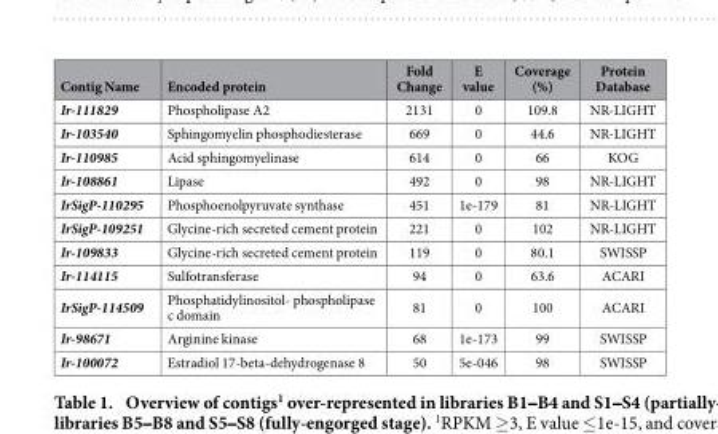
<table><thead><tr><td>Contig Name</td><td>Encoded protein</td><td>Fold Change</td><td>E value</td><td>Coverage (%)</td><td>Protein Database</td></tr></thead><tbody><tr><td>Ir-111829</td><td>Phospholipase A2</td><td>2131</td><td>0</td><td>109.8</td><td>NR-LIGHT</td></tr><tr><td>Ir-103540</td><td>Sphingomyelin phosphodiesterase</td><td>669</td><td>0</td><td>44.6</td><td>NR-LIGHT</td></tr><tr><td>Ir-110985</td><td>Acid sphingomyelinase</td><td>614</td><td>0</td><td>66</td><td>KOG</td></tr><tr><td>Ir-108861</td><td>Lipase</td><td>492</td><td>0</td><td>98</td><td>NR-LIGHT</td></tr><tr><td>IrSigP-110295</td><td>Phosphoenolpyruvate synthase</td><td>451</td><td>1e-179</td><td>81</td><td>NR-LIGHT</td></tr><tr><td>IrSigP-109251</td><td>Glycine-rich secreted cement protein</td><td>221</td><td>0</td><td>102</td><td>NR-LIGHT</td></tr><tr><td>Ir-109833</td><td>Glycine-rich secreted cement protein</td><td>119</td><td>0</td><td>80.1</td><td>SWISSP</td></tr><tr><td>Ir-114115</td><td>Sulfotransferase</td><td>94</td><td>0</td><td>63.6</td><td>ACARI</td></tr><tr><td>IrSigP-114509</td><td>Phosphatidylinositol- phospholipase c domain</td><td>81</td><td>0</td><td>100</td><td>ACARI</td></tr><tr><td>Ir-98671</td><td>Arginine kinase</td><td>68</td><td>1e-173</td><td>99</td><td>SWISSP</td></tr><tr><td>Ir-100072</td><td>Estradiol 17-beta-dehydrogenase 8</td><td>50</td><td>5e-046</td><td>98</td><td>SWISSP</td></tr></tbody></table>